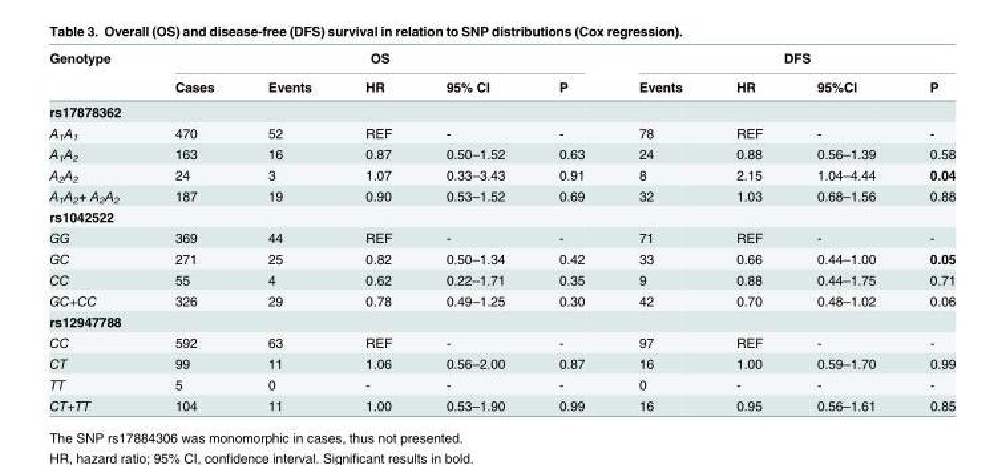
<table><thead><tr><td rowspan="2">Genotype</td><td colspan="5">OS</td><td colspan="4">DFS</td></tr><tr><td>Cases</td><td>Events</td><td>HR</td><td>95% CI</td><td>P</td><td>Events</td><td>HR</td><td>95%CI</td><td>P</td></tr></thead><tbody><tr><td colspan="10">rs17878362</td></tr><tr><td>A<sub>1</sub>A<sub>1</sub></td><td>470</td><td>52</td><td>REF</td><td>-</td><td>-</td><td>78</td><td>REF</td><td>-</td><td>-</td></tr><tr><td>A<sub>1</sub>A<sub>2</sub></td><td>163</td><td>16</td><td>0.87</td><td>0.50–1.52</td><td>0.63</td><td>24</td><td>0.88</td><td>0.56–1.39</td><td>0.58</td></tr><tr><td>A<sub>2</sub>A<sub>2</sub></td><td>24</td><td>3</td><td>1.07</td><td>0.33–3.43</td><td>0.91</td><td>8</td><td>2.15</td><td>1.04–4.44</td><td>0.04</td></tr><tr><td>A<sub>1</sub>A<sub>2</sub>+ A<sub>2</sub>A<sub>2</sub></td><td>187</td><td>19</td><td>0.90</td><td>0.53–1.52</td><td>0.69</td><td>32</td><td>1.03</td><td>0.68–1.56</td><td>0.88</td></tr><tr><td colspan="10">rs1042522</td></tr><tr><td>GG</td><td>369</td><td>44</td><td>REF</td><td>-</td><td>-</td><td>71</td><td>REF</td><td>-</td><td>-</td></tr><tr><td>GC</td><td>271</td><td>25</td><td>0.82</td><td>0.50–1.34</td><td>0.42</td><td>33</td><td>0.66</td><td>0.44–1.00</td><td>0.05</td></tr><tr><td>CC</td><td>55</td><td>4</td><td>0.62</td><td>0.22–1.71</td><td>0.35</td><td>9</td><td>0.88</td><td>0.44–1.75</td><td>0.71</td></tr><tr><td>GC+CC</td><td>326</td><td>29</td><td>0.78</td><td>0.49–1.25</td><td>0.30</td><td>42</td><td>0.70</td><td>0.48–1.02</td><td>0.06</td></tr><tr><td colspan="10">rs12947788</td></tr><tr><td>CC</td><td>592</td><td>63</td><td>REF</td><td>-</td><td>-</td><td>97</td><td>REF</td><td>-</td><td>-</td></tr><tr><td>CT</td><td>99</td><td>11</td><td>1.06</td><td>0.56–2.00</td><td>0.87</td><td>16</td><td>1.00</td><td>0.59–1.70</td><td>0.99</td></tr><tr><td>TT</td><td>5</td><td>0</td><td>-</td><td>-</td><td>-</td><td>0</td><td>-</td><td>-</td><td>-</td></tr><tr><td>CT+TT</td><td>104</td><td>11</td><td>1.00</td><td>0.53–1.90</td><td>0.99</td><td>16</td><td>0.95</td><td>0.56–1.61</td><td>0.85</td></tr></tbody></table>